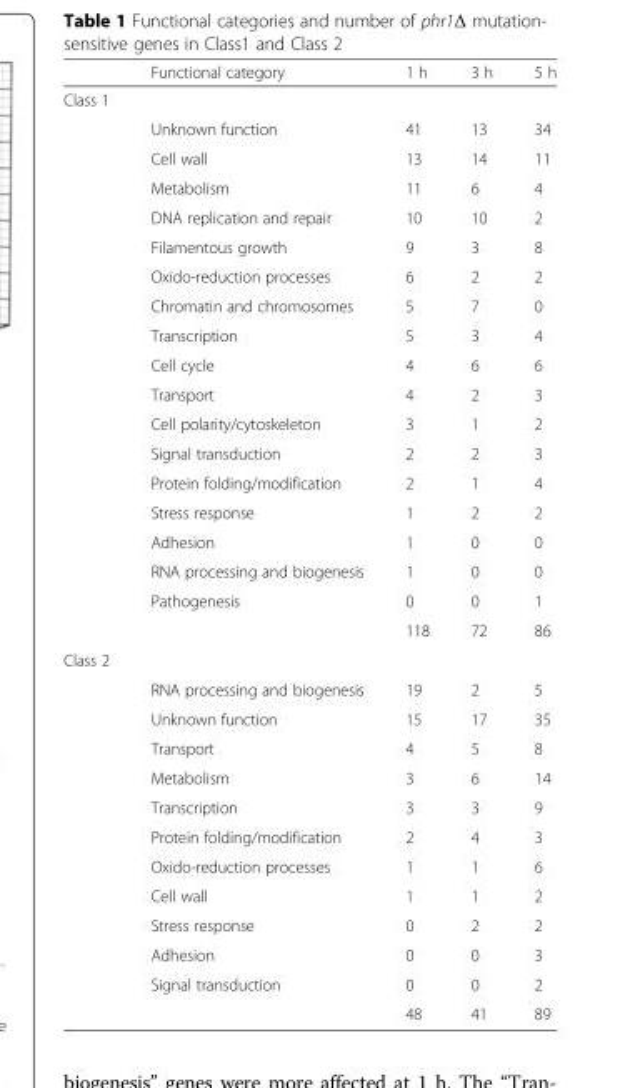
<table><thead><tr><td></td><td>Functional category</td><td>1 h</td><td>3 h</td><td>5 h</td></tr></thead><tbody><tr><td colspan="5">Class 1</td></tr><tr><td></td><td>Unknown function</td><td>41</td><td>13</td><td>34</td></tr><tr><td></td><td>Cell wall</td><td>13</td><td>14</td><td>11</td></tr><tr><td></td><td>Metabolism</td><td>11</td><td>6</td><td>4</td></tr><tr><td></td><td>DNA replication and repair</td><td>10</td><td>10</td><td>2</td></tr><tr><td></td><td>Filamentous growth</td><td>9</td><td>3</td><td>8</td></tr><tr><td></td><td>Oxido-reduction processes</td><td>6</td><td>2</td><td>2</td></tr><tr><td></td><td>Chromatin and chromosomes</td><td>5</td><td>7</td><td>0</td></tr><tr><td></td><td>Transcription</td><td>5</td><td>3</td><td>4</td></tr><tr><td></td><td>Cell cycle</td><td>4</td><td>6</td><td>6</td></tr><tr><td></td><td>Transport</td><td>4</td><td>2</td><td>3</td></tr><tr><td></td><td>Cell polarity/cytoskeleton</td><td>3</td><td>1</td><td>2</td></tr><tr><td></td><td>Signal transduction</td><td>2</td><td>2</td><td>3</td></tr><tr><td></td><td>Protein folding/modification</td><td>2</td><td>1</td><td>4</td></tr><tr><td></td><td>Stress response</td><td>1</td><td>2</td><td>2</td></tr><tr><td></td><td>Adhesion</td><td>1</td><td>0</td><td>0</td></tr><tr><td></td><td>RNA processing and biogenesis</td><td>1</td><td>0</td><td>0</td></tr><tr><td></td><td>Pathogenesis</td><td>0</td><td>0</td><td>1</td></tr><tr><td></td><td></td><td>118</td><td>72</td><td>86</td></tr><tr><td colspan="5">Class 2</td></tr><tr><td></td><td>RNA processing and biogenesis</td><td>19</td><td>2</td><td>5</td></tr><tr><td></td><td>Unknown function</td><td>15</td><td>17</td><td>35</td></tr><tr><td></td><td>Transport</td><td>4</td><td>5</td><td>8</td></tr><tr><td></td><td>Metabolism</td><td>3</td><td>6</td><td>14</td></tr><tr><td></td><td>Transcription</td><td>3</td><td>3</td><td>9</td></tr><tr><td></td><td>Protein folding/modification</td><td>2</td><td>4</td><td>3</td></tr><tr><td></td><td>Oxido-reduction processes</td><td>1</td><td>1</td><td>6</td></tr><tr><td></td><td>Cell wall</td><td>1</td><td>1</td><td>2</td></tr><tr><td></td><td>Stress response</td><td>0</td><td>2</td><td>2</td></tr><tr><td></td><td>Adhesion</td><td>0</td><td>0</td><td>3</td></tr><tr><td></td><td>Signal transduction</td><td>0</td><td>0</td><td>2</td></tr><tr><td></td><td></td><td>48</td><td>41</td><td>89</td></tr></tbody></table>